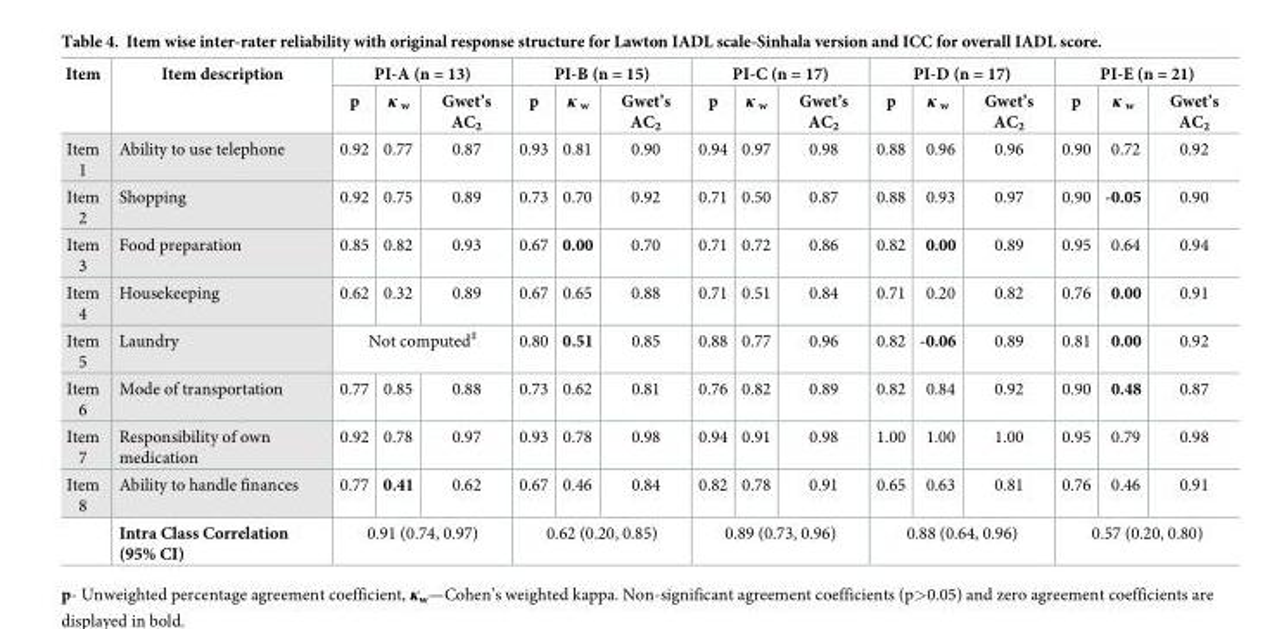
<table><thead><tr><td rowspan="2">Item</td><td rowspan="2">Item description</td><td colspan="3">PI-A (n = 13)</td><td colspan="3">PI-B (n = 15)</td><td colspan="3">PI-C (n = 17)</td><td colspan="3">PI-D (n = 17)</td><td colspan="3">PI-E (n = 21)</td></tr><tr><td>p</td><td>κ <sub>w</sub></td><td>Gwet’s AC<sub>2</sub></td><td>p</td><td>κ <sub>w</sub></td><td>Gwet’s AC<sub>2</sub></td><td>p</td><td>κ <sub>w</sub></td><td>Gwet’s AC<sub>2</sub></td><td>p</td><td>κ <sub>w</sub></td><td>Gwet’s AC<sub>2</sub></td><td>p</td><td>κ <sub>w</sub></td><td>Gwet’s AC<sub>2</sub></td></tr></thead><tbody><tr><td>Item 1</td><td>Ability to use telephone</td><td>0.92</td><td>0.77</td><td>0.87</td><td>0.93</td><td>0.81</td><td>0.90</td><td>0.94</td><td>0.97</td><td>0.98</td><td>0.88</td><td>0.96</td><td>0.96</td><td>0.90</td><td>0.72</td><td>0.92</td></tr><tr><td>Item 2</td><td>Shopping</td><td>0.92</td><td>0.75</td><td>0.89</td><td>0.73</td><td>0.70</td><td>0.92</td><td>0.71</td><td>0.50</td><td>0.87</td><td>0.88</td><td>0.93</td><td>0.97</td><td>0.90</td><td>-0.05</td><td>0.90</td></tr><tr><td>Item 3</td><td>Food preparation</td><td>0.85</td><td>0.82</td><td>0.93</td><td>0.67</td><td>0.00</td><td>0.70</td><td>0.71</td><td>0.72</td><td>0.86</td><td>0.82</td><td>0.00</td><td>0.89</td><td>0.95</td><td>0.64</td><td>0.94</td></tr><tr><td>Item 4</td><td>Housekeeping</td><td>0.62</td><td>0.32</td><td>0.89</td><td>0.67</td><td>0.65</td><td>0.88</td><td>0.71</td><td>0.51</td><td>0.84</td><td>0.71</td><td>0.20</td><td>0.82</td><td>0.76</td><td>0.00</td><td>0.91</td></tr><tr><td>Item 5</td><td>Laundry</td><td colspan="3">Not computed<sup>‡</sup></td><td>0.80</td><td>0.51</td><td>0.85</td><td>0.88</td><td>0.77</td><td>0.96</td><td>0.82</td><td>-0.06</td><td>0.89</td><td>0.81</td><td>0.00</td><td>0.92</td></tr><tr><td>Item 6</td><td>Mode of transportation</td><td>0.77</td><td>0.85</td><td>0.88</td><td>0.73</td><td>0.62</td><td>0.81</td><td>0.76</td><td>0.82</td><td>0.89</td><td>0.82</td><td>0.84</td><td>0.92</td><td>0.90</td><td>0.48</td><td>0.87</td></tr><tr><td>Item 7</td><td>Responsibility of own medication</td><td>0.92</td><td>0.78</td><td>0.97</td><td>0.93</td><td>0.78</td><td>0.98</td><td>0.94</td><td>0.91</td><td>0.98</td><td>1.00</td><td>1.00</td><td>1.00</td><td>0.95</td><td>0.79</td><td>0.98</td></tr><tr><td rowspan="2">Item 8</td><td>Ability to handle finances</td><td>0.77</td><td>0.41</td><td>0.62</td><td>0.67</td><td>0.46</td><td>0.84</td><td>0.82</td><td>0.78</td><td>0.91</td><td>0.65</td><td>0.63</td><td>0.81</td><td>0.76</td><td>0.46</td><td>0.91</td></tr><tr><td>Intra Class Correlation (95% CI)</td><td colspan="3">0.91 (0.74, 0.97)</td><td colspan="3">0.62 (0.20, 0.85)</td><td colspan="3">0.89 (0.73, 0.96)</td><td colspan="3">0.88 (0.64, 0.96)</td><td colspan="3">0.57 (0.20, 0.80)</td></tr></tbody></table>